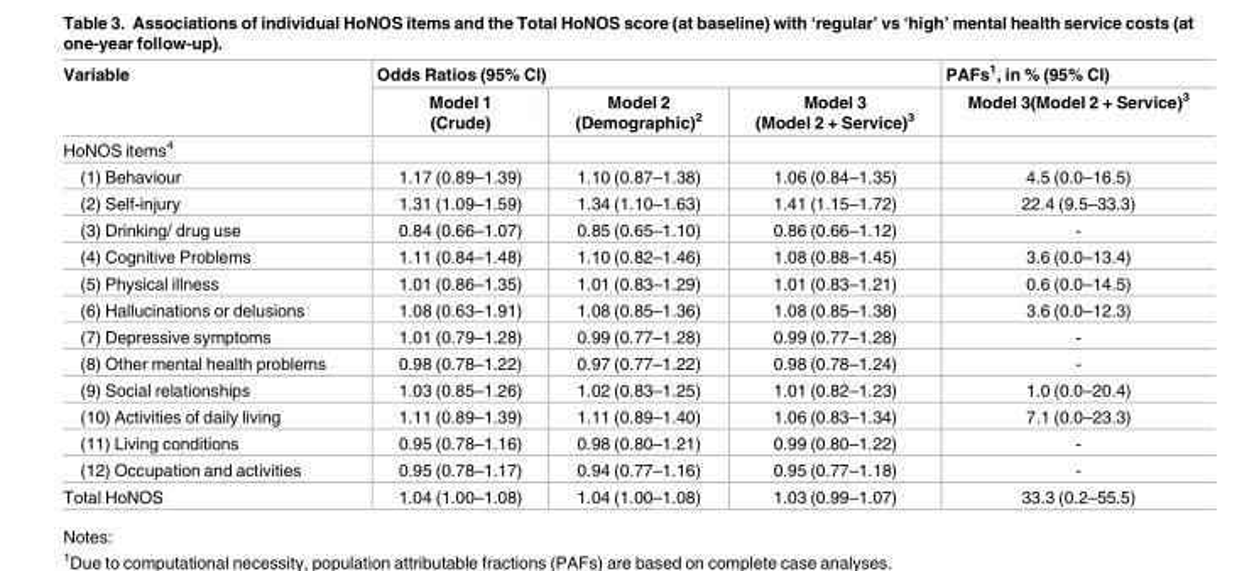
<table><thead><tr><td rowspan="2">Variable</td><td colspan="3">Odds Ratios (95% CI)</td><td rowspan="2">PAFs<sup>1</sup>, in % (95% CI) Model 3(Model 2 + Service)<sup>3</sup></td></tr><tr><td>Model 1 (Crude)</td><td>Model 2 (Demographic)<sup>2</sup></td><td>Model 3 (Model 2 + Service)<sup>3</sup></td></tr></thead><tbody><tr><td colspan="5">HoNOS items<sup>4</sup></td></tr><tr><td>(1) Behaviour</td><td>1.17 (0.89–1.39)</td><td>1.10 (0.87–1.38)</td><td>1.06 (0.84–1.35)</td><td>4.5 (0.0–16.5)</td></tr><tr><td>(2) Self-injury</td><td>1.31 (1.09–1.59)</td><td>1.34 (1.10–1.63)</td><td>1.41 (1.15–1.72)</td><td>22.4 (9.5–33.3)</td></tr><tr><td>(3) Drinking/ drug use</td><td>0.84 (0.66–1.07)</td><td>0.85 (0.65–1.10)</td><td>0.86 (0.66–1.12)</td><td>-</td></tr><tr><td>(4) Cognitive Problems</td><td>1.11 (0.84–1.48)</td><td>1.10 (0.82–1.46)</td><td>1.08 (0.88–1.45)</td><td>3.6 (0.0–13.4)</td></tr><tr><td>(5) Physical illness</td><td>1.01 (0.86–1.35)</td><td>1.01 (0.83–1.29)</td><td>1.01 (0.83–1.21)</td><td>0.6 (0.0–14.5)</td></tr><tr><td>(6) Hallucinations or delusions</td><td>1.08 (0.63–1.91)</td><td>1.08 (0.85–1.36)</td><td>1.08 (0.85–1.38)</td><td>3.6 (0.0–12.3)</td></tr><tr><td>(7) Depressive symptoms</td><td>1.01 (0.79–1.28)</td><td>0.99 (0.77–1.28)</td><td>0.99 (0.77–1.28)</td><td>-</td></tr><tr><td>(8) Other mental health problems</td><td>0.98 (0.78–1.22)</td><td>0.97 (0.77–1.22)</td><td>0.98 (0.78–1.24)</td><td>-</td></tr><tr><td>(9) Social relationships</td><td>1.03 (0.85–1.26)</td><td>1.02 (0.83–1.25)</td><td>1.01 (0.82–1.23)</td><td>1.0 (0.0–20.4)</td></tr><tr><td>(10) Activities of daily living</td><td>1.11 (0.89–1.39)</td><td>1.11 (0.89–1.40)</td><td>1.06 (0.83–1.34)</td><td>7.1 (0.0–23.3)</td></tr><tr><td>(11) Living conditions</td><td>0.95 (0.78–1.16)</td><td>0.98 (0.80–1.21)</td><td>0.99 (0.80–1.22)</td><td>-</td></tr><tr><td>(12) Occupation and activities</td><td>0.95 (0.78–1.17)</td><td>0.94 (0.77–1.16)</td><td>0.95 (0.77–1.18)</td><td>-</td></tr><tr><td>Total HoNOS</td><td>1.04 (1.00–1.08)</td><td>1.04 (1.00–1.08)</td><td>1.03 (0.99–1.07)</td><td>33.3 (0.2–55.5)</td></tr></tbody></table>